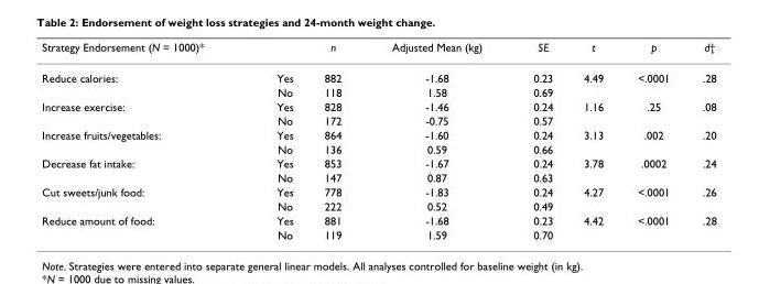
<table><thead><tr><td colspan="2">Strategy Endorsement (N = 1000)*</td><td rowspan="2">n 882</td><td rowspan="2">Adjusted Mean (kg) -1.68</td><td rowspan="2">SE 0.23</td><td rowspan="2">t 4.49</td><td rowspan="2">p &lt;.0001</td><td rowspan="2">d† .28</td></tr><tr><td>Reduce calories:</td><td>Yes</td></tr></thead><tbody><tr><td></td><td>No</td><td>118</td><td>1.58</td><td>0.69</td><td></td><td></td><td></td></tr><tr><td rowspan="2">Increase exercise:</td><td>Yes</td><td>828</td><td>-1.46</td><td>0.24</td><td>1.16</td><td>.25</td><td>.08</td></tr><tr><td>No</td><td>172</td><td>-0.75</td><td>0.57</td><td></td><td></td><td></td></tr><tr><td rowspan="2">Increase fruits/vegetables:</td><td>Yes</td><td>864</td><td>-1.60</td><td>0.24</td><td>3.13</td><td>.002</td><td>.20</td></tr><tr><td>No</td><td>136</td><td>0.59</td><td>0.66</td><td></td><td></td><td></td></tr><tr><td rowspan="2">Decrease fat intake:</td><td>Yes</td><td>853</td><td>-1.67</td><td>0.24</td><td>3.78</td><td>.0002</td><td>.24</td></tr><tr><td>No</td><td>147</td><td>0.87</td><td>0.63</td><td></td><td></td><td></td></tr><tr><td rowspan="2">Cut sweets/junk food:</td><td>Yes</td><td>778</td><td>-1.83</td><td>0.24</td><td>4.27</td><td>&lt;.0001</td><td>.26</td></tr><tr><td>No</td><td>222</td><td>0.52</td><td>0.49</td><td></td><td></td><td></td></tr><tr><td rowspan="2">Reduce amount of food:</td><td>Yes</td><td>881</td><td>-1.68</td><td>0.23</td><td>4.42</td><td>&lt;.0001</td><td>.28</td></tr><tr><td>No</td><td>119</td><td>1.59</td><td>0.70</td><td></td><td></td><td></td></tr></tbody></table>